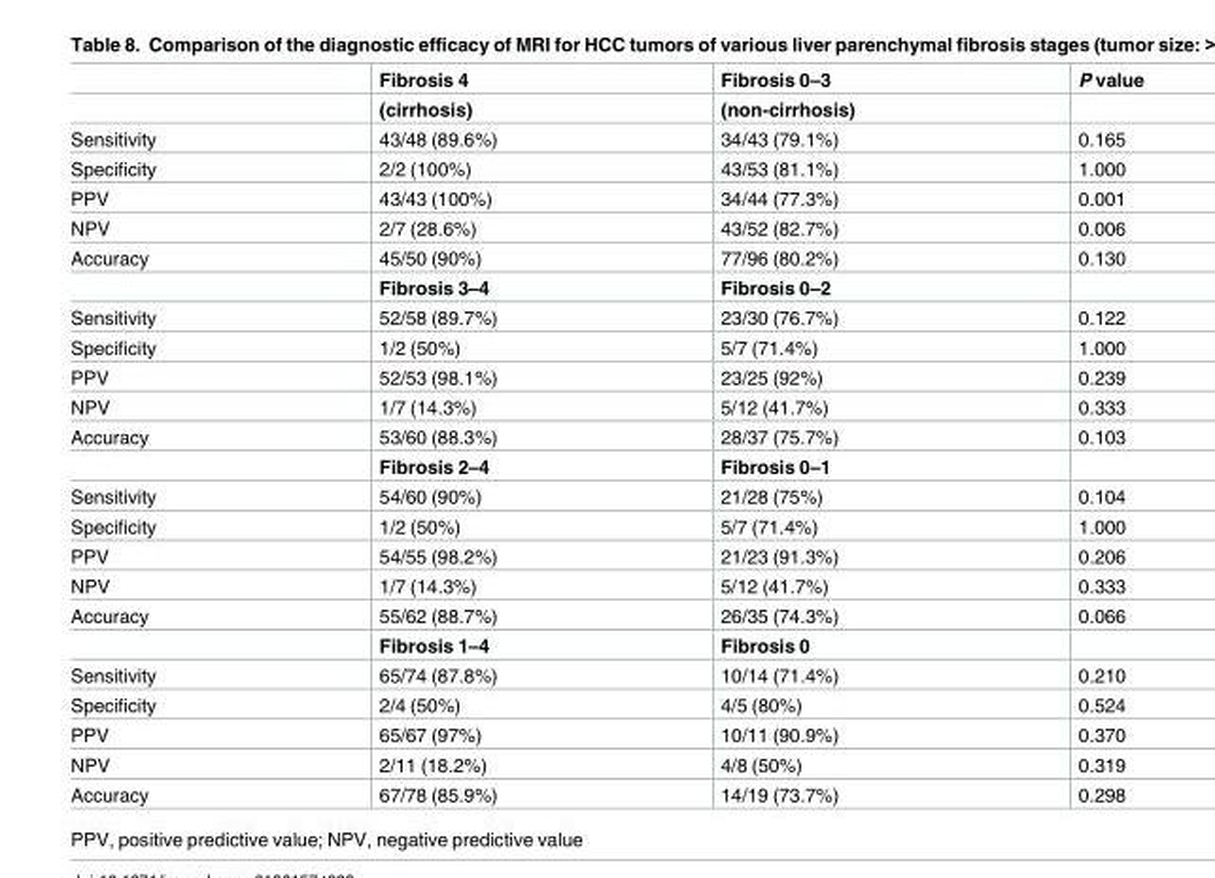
<table><thead><tr><td></td><td>Fibrosis 4</td><td>Fibrosis 0–3</td><td>P value</td></tr></thead><tbody><tr><td></td><td>(cirrhosis)</td><td>(non-cirrhosis)</td><td></td></tr><tr><td>Sensitivity</td><td>43/48 (89.6%)</td><td>34/43 (79.1%)</td><td>0.165</td></tr><tr><td>Specificity</td><td>2/2 (100%)</td><td>43/53 (81.1%)</td><td>1.000</td></tr><tr><td>PPV</td><td>43/43 (100%)</td><td>34/44 (77.3%)</td><td>0.001</td></tr><tr><td>NPV</td><td>2/7 (28.6%)</td><td>43/52 (82.7%)</td><td>0.006</td></tr><tr><td rowspan="2">Accuracy</td><td>45/50 (90%)</td><td>77/96 (80.2%)</td><td>0.130</td></tr><tr><td>Fibrosis 3–4</td><td>Fibrosis 0–2</td><td></td></tr><tr><td>Sensitivity</td><td>52/58 (89.7%)</td><td>23/30 (76.7%)</td><td>0.122</td></tr><tr><td>Specificity</td><td>1/2 (50%)</td><td>5/7 (71.4%)</td><td>1.000</td></tr><tr><td>PPV</td><td>52/53 (98.1%)</td><td>23/25 (92%)</td><td>0.239</td></tr><tr><td>NPV</td><td>1/7 (14.3%)</td><td>5/12 (41.7%)</td><td>0.333</td></tr><tr><td rowspan="2">Accuracy</td><td>53/60 (88.3%)</td><td>28/37 (75.7%)</td><td>0.103</td></tr><tr><td>Fibrosis 2–4</td><td>Fibrosis 0–1</td><td></td></tr><tr><td>Sensitivity</td><td>54/60 (90%)</td><td>21/28 (75%)</td><td>0.104</td></tr><tr><td>Specificity</td><td>1/2 (50%)</td><td>5/7 (71.4%)</td><td>1.000</td></tr><tr><td>PPV</td><td>54/55 (98.2%)</td><td>21/23 (91.3%)</td><td>0.206</td></tr><tr><td>NPV</td><td>1/7 (14.3%)</td><td>5/12 (41.7%)</td><td>0.333</td></tr><tr><td rowspan="2">Accuracy</td><td>55/62 (88.7%)</td><td>26/35 (74.3%)</td><td>0.066</td></tr><tr><td>Fibrosis 1–4</td><td>Fibrosis 0</td><td></td></tr><tr><td>Sensitivity</td><td>65/74 (87.8%)</td><td>10/14 (71.4%)</td><td>0.210</td></tr><tr><td>Specificity</td><td>2/4 (50%)</td><td>4/5 (80%)</td><td>0.524</td></tr><tr><td>PPV</td><td>65/67 (97%)</td><td>10/11 (90.9%)</td><td>0.370</td></tr><tr><td>NPV</td><td>2/11 (18.2%)</td><td>4/8 (50%)</td><td>0.319</td></tr><tr><td>Accuracy</td><td>67/78 (85.9%)</td><td>14/19 (73.7%)</td><td>0.298</td></tr></tbody></table>